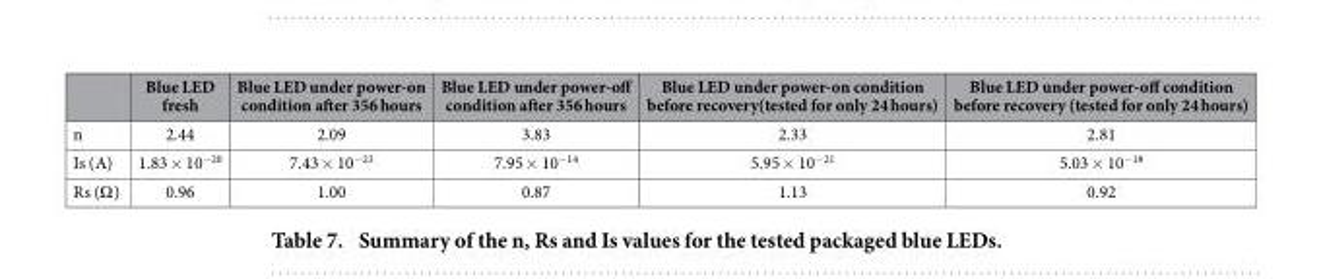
<table><thead><tr><td></td><td>Blue LED fresh</td><td>Blue LED under power-on condition after 356 hours</td><td>Blue LED under power-off condition after 356 hours</td><td>Blue LED under power-on condition before recovery(tested for only 24 hours)</td><td>Blue LED under power-off condition before recovery (tested for only 24 hours)</td></tr></thead><tbody><tr><td>n</td><td>2.44</td><td>2.09</td><td>3.83</td><td>2.33</td><td>2.81</td></tr><tr><td>Is (A)</td><td>1.83 × 10<sup>−20</sup></td><td>7.43 × 10<sup>−23</sup></td><td>7.95 × 10<sup>−14</sup></td><td>5.95 × 10<sup>−21</sup></td><td>5.03 × 10<sup>−18</sup></td></tr><tr><td>Rs (Ω )</td><td>0.96</td><td>1.00</td><td>0.87</td><td>1.13</td><td>0.92</td></tr></tbody></table>